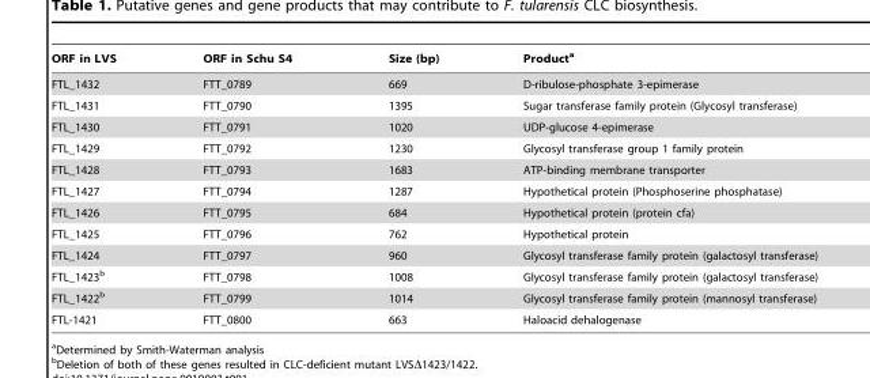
<table><thead><tr><td>ORF in LVS</td><td>ORF in Schu S4</td><td>Size (bp)</td><td>Product<sup>a</sup></td></tr></thead><tbody><tr><td>FTL_1432</td><td>FTT_0789</td><td>669</td><td>D-ribulose-phosphate 3-epimerase</td></tr><tr><td>FTL_1431</td><td>FTT_0790</td><td>1395</td><td>Sugar transferase family protein (Glycosyl transferase)</td></tr><tr><td>FTL_1430</td><td>FTT_0791</td><td>1020</td><td>UDP-glucose 4-epimerase</td></tr><tr><td>FTL_1429</td><td>FTT_0792</td><td>1230</td><td>Glycosyl transferase group 1 family protein</td></tr><tr><td>FTL_1428</td><td>FTT_0793</td><td>1683</td><td>ATP-binding membrane transporter</td></tr><tr><td>FTL_1427</td><td>FTT_0794</td><td>1287</td><td>Hypothetical protein (Phosphoserine phosphatase)</td></tr><tr><td>FTL_1426</td><td>FTT_0795</td><td>684</td><td>Hypothetical protein (protein cfa)</td></tr><tr><td>FTL_1425</td><td>FTT_0796</td><td>762</td><td>Hypothetical protein</td></tr><tr><td>FTL_1424</td><td>FTT_0797</td><td>960</td><td>Glycosyl transferase family protein (galactosyl transferase)</td></tr><tr><td>FTL_1423<sup>b</sup></td><td>FTT_0798</td><td>1008</td><td>Glycosyl transferase family protein (galactosyl transferase)</td></tr><tr><td>FTL_1422<sup>b</sup></td><td>FTT_0799</td><td>1014</td><td>Glycosyl transferase family protein (mannosyl transferase)</td></tr><tr><td>FTL-1421</td><td>FTT_0800</td><td>663</td><td>Haloacid dehalogenase</td></tr></tbody></table>